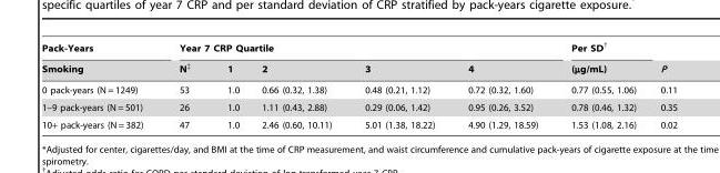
<table><thead><tr><td rowspan="2">Pack-Years Smoking</td><td colspan="5">Year 7 CRP Quartile</td><td rowspan="2">Per SD† (µg/mL)</td><td rowspan="2">P</td></tr><tr><td>N‡</td><td>1</td><td>2</td><td>3</td><td>4</td></tr></thead><tbody><tr><td>0 pack-years (N = 1249)</td><td>53</td><td>1.0</td><td>0.66 (0.32, 1.38)</td><td>0.48 (0.21, 1.12)</td><td>0.72 (0.32, 1.60)</td><td>0.77 (0.55, 1.06)</td><td>0.11</td></tr><tr><td>1–9 pack-years (N = 501)</td><td>26</td><td>1.0</td><td>1.11 (0.43, 2.88)</td><td>0.29 (0.06, 1.42)</td><td>0.95 (0.26, 3.52)</td><td>0.78 (0.46, 1.32)</td><td>0.35</td></tr><tr><td>10+ pack-years (N = 382)</td><td>47</td><td>1.0</td><td>2.46 (0.60, 10.11)</td><td>5.01 (1.38, 18.22)</td><td>4.90 (1.29, 18.59)</td><td>1.53 (1.08, 2.16)</td><td>0.02</td></tr></tbody></table>